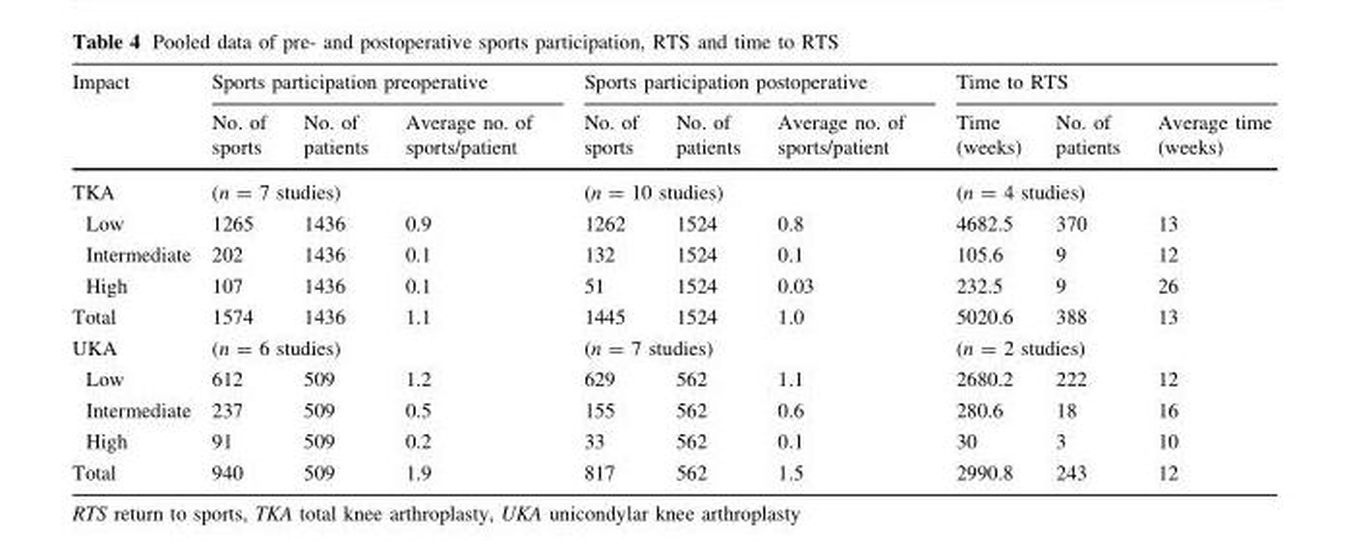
<table><thead><tr><td rowspan="2">Impact</td><td colspan="3">Sports participation preoperative</td><td colspan="3">Sports participation postoperative</td><td colspan="3">Time to RTS</td></tr><tr><td>No. of sports</td><td>No. of patients</td><td>Average no. of sports/patient</td><td>No. of sports</td><td>No. of patients</td><td>Average no. of sports/patient</td><td>Time (weeks)</td><td>No. of patients</td><td>Average time (weeks)</td></tr></thead><tbody><tr><td>TKA</td><td colspan="3">(n = 7 studies)</td><td colspan="3">(n = 10 studies)</td><td colspan="3">(n = 4 studies)</td></tr><tr><td>Low</td><td>1265</td><td>1436</td><td>0.9</td><td>1262</td><td>1524</td><td>0.8</td><td>4682.5</td><td>370</td><td>13</td></tr><tr><td>Intermediate</td><td>202</td><td>1436</td><td>0.1</td><td>132</td><td>1524</td><td>0.1</td><td>105.6</td><td>9</td><td>12</td></tr><tr><td>High</td><td>107</td><td>1436</td><td>0.1</td><td>51</td><td>1524</td><td>0.03</td><td>232.5</td><td>9</td><td>26</td></tr><tr><td>Total</td><td>1574</td><td>1436</td><td>1.1</td><td>1445</td><td>1524</td><td>1.0</td><td>5020.6</td><td>388</td><td>13</td></tr><tr><td>UKA</td><td colspan="3">(n = 6 studies)</td><td colspan="3">(n = 7 studies)</td><td colspan="3">(n = 2 studies)</td></tr><tr><td>Low</td><td>612</td><td>509</td><td>1.2</td><td>629</td><td>562</td><td>1.1</td><td>2680.2</td><td>222</td><td>12</td></tr><tr><td>Intermediate</td><td>237</td><td>509</td><td>0.5</td><td>155</td><td>562</td><td>0.6</td><td>280.6</td><td>18</td><td>16</td></tr><tr><td>High</td><td>91</td><td>509</td><td>0.2</td><td>33</td><td>562</td><td>0.1</td><td>30</td><td>3</td><td>10</td></tr><tr><td>Total</td><td>940</td><td>509</td><td>1.9</td><td>817</td><td>562</td><td>1.5</td><td>2990.8</td><td>243</td><td>12</td></tr></tbody></table>